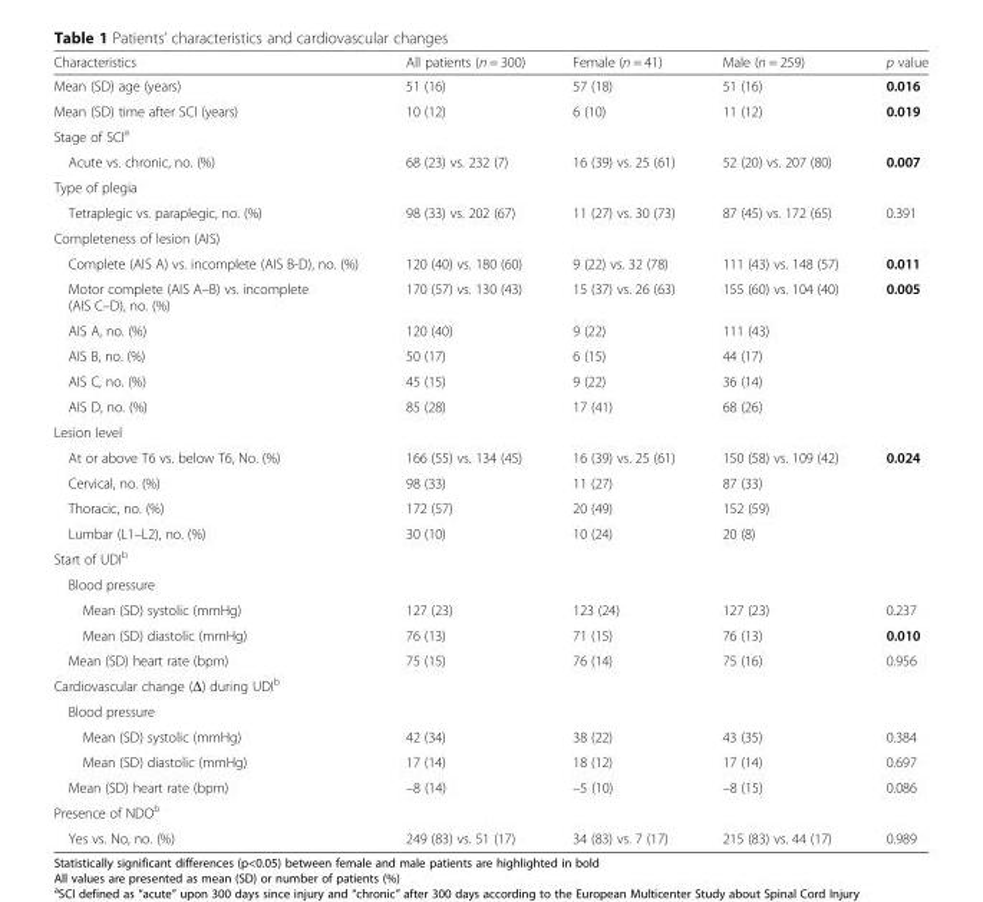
<table><thead><tr><td>Characteristics</td><td>All patients (n = 300)</td><td>Female (n = 41)</td><td>Male (n = 259)</td><td>p value</td></tr></thead><tbody><tr><td>Mean (SD) age (years)</td><td>51 (16)</td><td>57 (18)</td><td>51 (16)</td><td>0.016</td></tr><tr><td>Mean (SD) time after SCI (years)</td><td>10 (12)</td><td>6 (10)</td><td>11 (12)</td><td>0.019</td></tr><tr><td colspan="5">Stage of SCI<sup>a</sup></td></tr><tr><td>Acute vs. chronic, no. (%)</td><td>68 (23) vs. 232 (7)</td><td>16 (39) vs. 25 (61)</td><td>52 (20) vs. 207 (80)</td><td>0.007</td></tr><tr><td colspan="5">Type of plegia</td></tr><tr><td>Tetraplegic vs. paraplegic, no. (%)</td><td>98 (33) vs. 202 (67)</td><td>11 (27) vs. 30 (73)</td><td>87 (45) vs. 172 (65)</td><td>0.391</td></tr><tr><td colspan="5">Completeness of lesion (AIS)</td></tr><tr><td>Complete (AIS A) vs. incomplete (AIS B-D), no. (%)</td><td>120 (40) vs. 180 (60)</td><td>9 (22) vs. 32 (78)</td><td>111 (43) vs. 148 (57)</td><td>0.011</td></tr><tr><td>Motor complete (AIS A–B) vs. incomplete (AIS C–D), no. (%)</td><td>170 (57) vs. 130 (43)</td><td>15 (37) vs. 26 (63)</td><td>155 (60) vs. 104 (40)</td><td>0.005</td></tr><tr><td>AIS A, no. (%)</td><td>120 (40)</td><td>9 (22)</td><td>111 (43)</td><td></td></tr><tr><td>AIS B, no. (%)</td><td>50 (17)</td><td>6 (15)</td><td>44 (17)</td><td></td></tr><tr><td>AIS C, no. (%)</td><td>45 (15)</td><td>9 (22)</td><td>36 (14)</td><td></td></tr><tr><td>AIS D, no. (%)</td><td>85 (28)</td><td>17 (41)</td><td>68 (26)</td><td></td></tr><tr><td colspan="5">Lesion level</td></tr><tr><td>At or above T6 vs. below T6, No. (%)</td><td>166 (55) vs. 134 (45)</td><td>16 (39) vs. 25 (61)</td><td>150 (58) vs. 109 (42)</td><td>0.024</td></tr><tr><td>Cervical, no. (%)</td><td>98 (33)</td><td>11 (27)</td><td>87 (33)</td><td></td></tr><tr><td>Thoracic, no. (%)</td><td>172 (57)</td><td>20 (49)</td><td>152 (59)</td><td></td></tr><tr><td>Lumbar (L1–L2), no. (%)</td><td>30 (10)</td><td>10 (24)</td><td>20 (8)</td><td></td></tr><tr><td colspan="5">Start of UDI<sup>b</sup></td></tr><tr><td colspan="5">Blood pressure</td></tr><tr><td>Mean (SD) systolic (mmHg)</td><td>127 (23)</td><td>123 (24)</td><td>127 (23)</td><td>0.237</td></tr><tr><td>Mean (SD) diastolic (mmHg)</td><td>76 (13)</td><td>71 (15)</td><td>76 (13)</td><td>0.010</td></tr><tr><td>Mean (SD) heart rate (bpm)</td><td>75 (15)</td><td>76 (14)</td><td>75 (16)</td><td>0.956</td></tr><tr><td colspan="5">Cardiovascular change (Δ) during UDI<sup>b</sup></td></tr><tr><td colspan="5">Blood pressure</td></tr><tr><td>Mean (SD) systolic (mmHg)</td><td>42 (34)</td><td>38 (22)</td><td>43 (35)</td><td>0.384</td></tr><tr><td>Mean (SD) diastolic (mmHg)</td><td>17 (14)</td><td>18 (12)</td><td>17 (14)</td><td>0.697</td></tr><tr><td>Mean (SD) heart rate (bpm)</td><td>–8 (14)</td><td>–5 (10)</td><td>–8 (15)</td><td>0.086</td></tr><tr><td colspan="5">Presence of NDO<sup>b</sup></td></tr><tr><td>Yes vs. No, no. (%)</td><td>249 (83) vs. 51 (17)</td><td>34 (83) vs. 7 (17)</td><td>215 (83) vs. 44 (17)</td><td>0.989</td></tr></tbody></table>